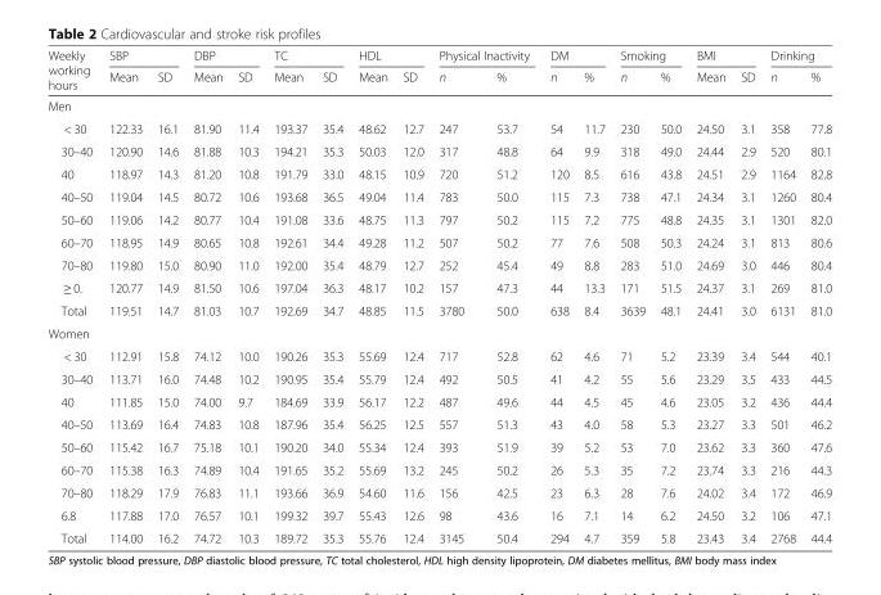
<table><thead><tr><td rowspan="2">Weekly working hours</td><td colspan="2">SBP</td><td colspan="2">DBP</td><td colspan="2">TC</td><td colspan="2">HDL</td><td colspan="2">Physical Inactivity</td><td colspan="2">DM</td><td colspan="2">Smoking</td><td colspan="2">BMI</td><td colspan="2">Drinking</td></tr><tr><td>Mean</td><td>SD</td><td>Mean</td><td>SD</td><td>Mean</td><td>SD</td><td>Mean</td><td>SD</td><td>n</td><td>%</td><td>n</td><td>%</td><td>n</td><td>%</td><td>Mean</td><td>SD</td><td>n</td><td>%</td></tr></thead><tbody><tr><td colspan="19">Men</td></tr><tr><td>&lt; 30</td><td>122.33</td><td>16.1</td><td>81.90</td><td>11.4</td><td>193.37</td><td>35.4</td><td>48.62</td><td>12.7</td><td>247</td><td>53.7</td><td>54</td><td>11.7</td><td>230</td><td>50.0</td><td>24.50</td><td>3.1</td><td>358</td><td>77.8</td></tr><tr><td>30–40</td><td>120.90</td><td>14.6</td><td>81.88</td><td>10.3</td><td>194.21</td><td>35.3</td><td>50.03</td><td>12.0</td><td>317</td><td>48.8</td><td>64</td><td>9.9</td><td>318</td><td>49.0</td><td>24.44</td><td>2.9</td><td>520</td><td>80.1</td></tr><tr><td>40</td><td>118.97</td><td>14.3</td><td>81.20</td><td>10.8</td><td>191.79</td><td>33.0</td><td>48.15</td><td>10.9</td><td>720</td><td>51.2</td><td>120</td><td>8.5</td><td>616</td><td>43.8</td><td>24.51</td><td>2.9</td><td>1164</td><td>82.8</td></tr><tr><td>40–50</td><td>119.04</td><td>14.5</td><td>80.72</td><td>10.6</td><td>193.68</td><td>36.5</td><td>49.04</td><td>11.4</td><td>783</td><td>50.0</td><td>115</td><td>7.3</td><td>738</td><td>47.1</td><td>24.34</td><td>3.1</td><td>1260</td><td>80.4</td></tr><tr><td>50–60</td><td>119.06</td><td>14.2</td><td>80.77</td><td>10.4</td><td>191.08</td><td>33.6</td><td>48.75</td><td>11.3</td><td>797</td><td>50.2</td><td>115</td><td>7.2</td><td>775</td><td>48.8</td><td>24.35</td><td>3.1</td><td>1301</td><td>82.0</td></tr><tr><td>60–70</td><td>118.95</td><td>14.9</td><td>80.65</td><td>10.8</td><td>192.61</td><td>34.4</td><td>49.28</td><td>11.2</td><td>507</td><td>50.2</td><td>77</td><td>7.6</td><td>508</td><td>50.3</td><td>24.24</td><td>3.1</td><td>813</td><td>80.6</td></tr><tr><td>70–80</td><td>119.80</td><td>15.0</td><td>80.90</td><td>11.0</td><td>192.00</td><td>35.4</td><td>48.79</td><td>12.7</td><td>252</td><td>45.4</td><td>49</td><td>8.8</td><td>283</td><td>51.0</td><td>24.69</td><td>3.0</td><td>446</td><td>80.4</td></tr><tr><td>≥ 0.</td><td>120.77</td><td>14.9</td><td>81.50</td><td>10.6</td><td>197.04</td><td>36.3</td><td>48.17</td><td>10.2</td><td>157</td><td>47.3</td><td>44</td><td>13.3</td><td>171</td><td>51.5</td><td>24.37</td><td>3.1</td><td>269</td><td>81.0</td></tr><tr><td>Total</td><td>119.51</td><td>14.7</td><td>81.03</td><td>10.7</td><td>192.69</td><td>34.7</td><td>48.85</td><td>11.5</td><td>3780</td><td>50.0</td><td>638</td><td>8.4</td><td>3639</td><td>48.1</td><td>24.41</td><td>3.0</td><td>6131</td><td>81.0</td></tr><tr><td colspan="19">Women</td></tr><tr><td>&lt; 30</td><td>112.91</td><td>15.8</td><td>74.12</td><td>10.0</td><td>190.26</td><td>35.3</td><td>55.69</td><td>12.4</td><td>717</td><td>52.8</td><td>62</td><td>4.6</td><td>71</td><td>5.2</td><td>23.39</td><td>3.4</td><td>544</td><td>40.1</td></tr><tr><td>30–40</td><td>113.71</td><td>16.0</td><td>74.48</td><td>10.2</td><td>190.95</td><td>35.4</td><td>55.79</td><td>12.4</td><td>492</td><td>50.5</td><td>41</td><td>4.2</td><td>55</td><td>5.6</td><td>23.29</td><td>3.5</td><td>433</td><td>44.5</td></tr><tr><td>40</td><td>111.85</td><td>15.0</td><td>74.00</td><td>9.7</td><td>184.69</td><td>33.9</td><td>56.17</td><td>12.2</td><td>487</td><td>49.6</td><td>44</td><td>4.5</td><td>45</td><td>4.6</td><td>23.05</td><td>3.2</td><td>436</td><td>44.4</td></tr><tr><td>40–50</td><td>113.69</td><td>16.4</td><td>74.83</td><td>10.8</td><td>187.96</td><td>35.4</td><td>56.25</td><td>12.5</td><td>557</td><td>51.3</td><td>43</td><td>4.0</td><td>58</td><td>5.3</td><td>23.27</td><td>3.3</td><td>501</td><td>46.2</td></tr><tr><td>50–60</td><td>115.42</td><td>16.7</td><td>75.18</td><td>10.1</td><td>190.20</td><td>34.0</td><td>55.34</td><td>12.4</td><td>393</td><td>51.9</td><td>39</td><td>5.2</td><td>53</td><td>7.0</td><td>23.62</td><td>3.3</td><td>360</td><td>47.6</td></tr><tr><td>60–70</td><td>115.38</td><td>16.3</td><td>74.89</td><td>10.4</td><td>191.65</td><td>35.2</td><td>55.69</td><td>13.2</td><td>245</td><td>50.2</td><td>26</td><td>5.3</td><td>35</td><td>7.2</td><td>23.74</td><td>3.3</td><td>216</td><td>44.3</td></tr><tr><td>70–80</td><td>118.29</td><td>17.9</td><td>76.83</td><td>11.1</td><td>193.66</td><td>36.9</td><td>54.60</td><td>11.6</td><td>156</td><td>42.5</td><td>23</td><td>6.3</td><td>28</td><td>7.6</td><td>24.02</td><td>3.4</td><td>172</td><td>46.9</td></tr><tr><td>6.8</td><td>117.88</td><td>17.0</td><td>76.57</td><td>10.1</td><td>199.32</td><td>39.7</td><td>55.43</td><td>12.6</td><td>98</td><td>43.6</td><td>16</td><td>7.1</td><td>14</td><td>6.2</td><td>24.50</td><td>3.2</td><td>106</td><td>47.1</td></tr><tr><td>Total</td><td>114.00</td><td>16.2</td><td>74.72</td><td>10.3</td><td>189.72</td><td>35.3</td><td>55.76</td><td>12.4</td><td>3145</td><td>50.4</td><td>294</td><td>4.7</td><td>359</td><td>5.8</td><td>23.43</td><td>3.4</td><td>2768</td><td>44.4</td></tr></tbody></table>